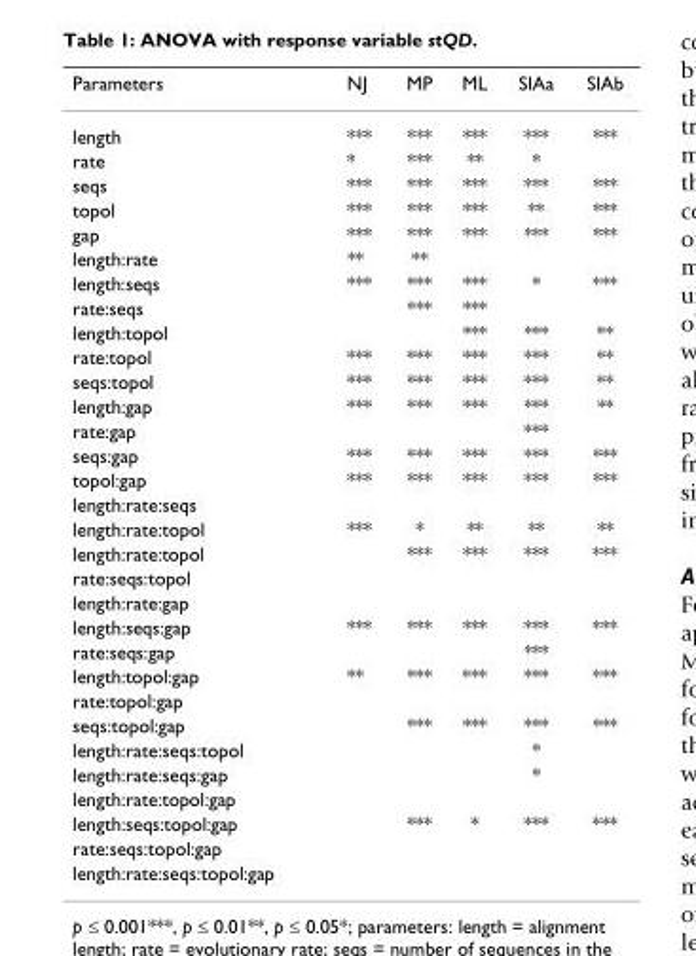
<table><thead><tr><td>Parameters</td><td>NJ</td><td>MP</td><td>ML</td><td>SIAa</td><td>SIAb</td></tr></thead><tbody><tr><td>length</td><td>***</td><td>***</td><td>***</td><td>***</td><td>***</td></tr><tr><td>rate</td><td>*</td><td>***</td><td>**</td><td>*</td><td></td></tr><tr><td>seqs</td><td>***</td><td>***</td><td>***</td><td>***</td><td>***</td></tr><tr><td>topol</td><td>***</td><td>***</td><td>***</td><td>**</td><td>***</td></tr><tr><td>gap</td><td>***</td><td>***</td><td>***</td><td>***</td><td>***</td></tr><tr><td>length:rate</td><td>**</td><td>**</td><td></td><td></td><td></td></tr><tr><td>length:seqs</td><td>***</td><td>***</td><td>***</td><td>*</td><td>***</td></tr><tr><td>rate:seqs</td><td></td><td>***</td><td>***</td><td></td><td></td></tr><tr><td>length:topol</td><td></td><td></td><td>***</td><td>***</td><td>**</td></tr><tr><td>rate:topol</td><td>***</td><td>***</td><td>***</td><td>***</td><td>**</td></tr><tr><td>seqs:topol</td><td>***</td><td>***</td><td>***</td><td>***</td><td>**</td></tr><tr><td>length:gap</td><td>***</td><td>***</td><td>***</td><td>***</td><td>**</td></tr><tr><td>rate:gap</td><td></td><td></td><td></td><td>***</td><td></td></tr><tr><td>seqs:gap</td><td>***</td><td>***</td><td>***</td><td>***</td><td>***</td></tr><tr><td>topol:gap</td><td>***</td><td>***</td><td>***</td><td>***</td><td>***</td></tr><tr><td colspan="6">length:rate:seqs</td></tr><tr><td>length:rate:topol</td><td>***</td><td>*</td><td>**</td><td>**</td><td>**</td></tr><tr><td>length:rate:topol</td><td></td><td>***</td><td>***</td><td>***</td><td>***</td></tr><tr><td colspan="6">rate:seqs:topol</td></tr><tr><td colspan="6">length:rate:gap</td></tr><tr><td>length:seqs:gap</td><td>***</td><td>***</td><td>***</td><td>***</td><td>***</td></tr><tr><td>rate:seqs:gap</td><td></td><td></td><td></td><td>***</td><td></td></tr><tr><td>length:topol:gap</td><td>**</td><td>***</td><td>***</td><td>***</td><td>***</td></tr><tr><td colspan="6">rate:topol:gap</td></tr><tr><td>seqs:topol:gap</td><td></td><td>***</td><td>***</td><td>***</td><td>***</td></tr><tr><td>length:rate:seqs:topol</td><td></td><td></td><td></td><td>*</td><td></td></tr><tr><td>length:rate:seqs:gap</td><td></td><td></td><td></td><td>*</td><td></td></tr><tr><td colspan="6">length:rate:topol:gap</td></tr><tr><td>length:seqs:topol:gap</td><td></td><td>***</td><td>*</td><td>***</td><td>***</td></tr><tr><td colspan="6">rate:seqs:topol:gap</td></tr><tr><td>length:rate:seqs:topol:gap</td><td></td><td></td><td></td><td></td><td></td></tr></tbody></table>